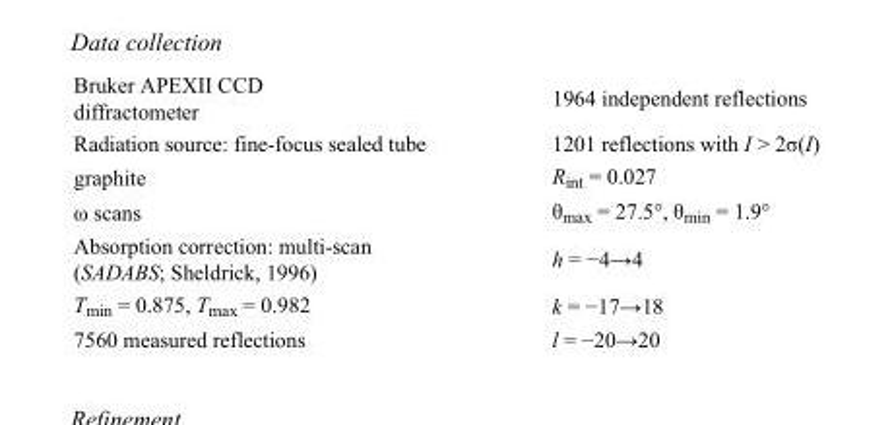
<table><tbody><tr><td>Bruker APEXII CCD diffractometer</td><td>1964 independent reflections</td></tr><tr><td>Radiation source: fine-focus sealed tube</td><td>1201 reflections with I &gt; 2σ(I)</td></tr><tr><td>graphite</td><td>R<sub>int</sub> = 0.027</td></tr><tr><td>ω scans</td><td>θ<sub>max</sub> = 27.5°, θ<sub>min</sub> = 1.9°</td></tr><tr><td>Absorption correction: multi-scan (SADABS; Sheldrick, 1996)</td><td>h = −4→4</td></tr><tr><td>T<sub>min</sub> = 0.875, T<sub>max</sub> = 0.982</td><td>k = −17→18</td></tr><tr><td>7560 measured reflections</td><td>l = −20→20</td></tr></tbody></table>